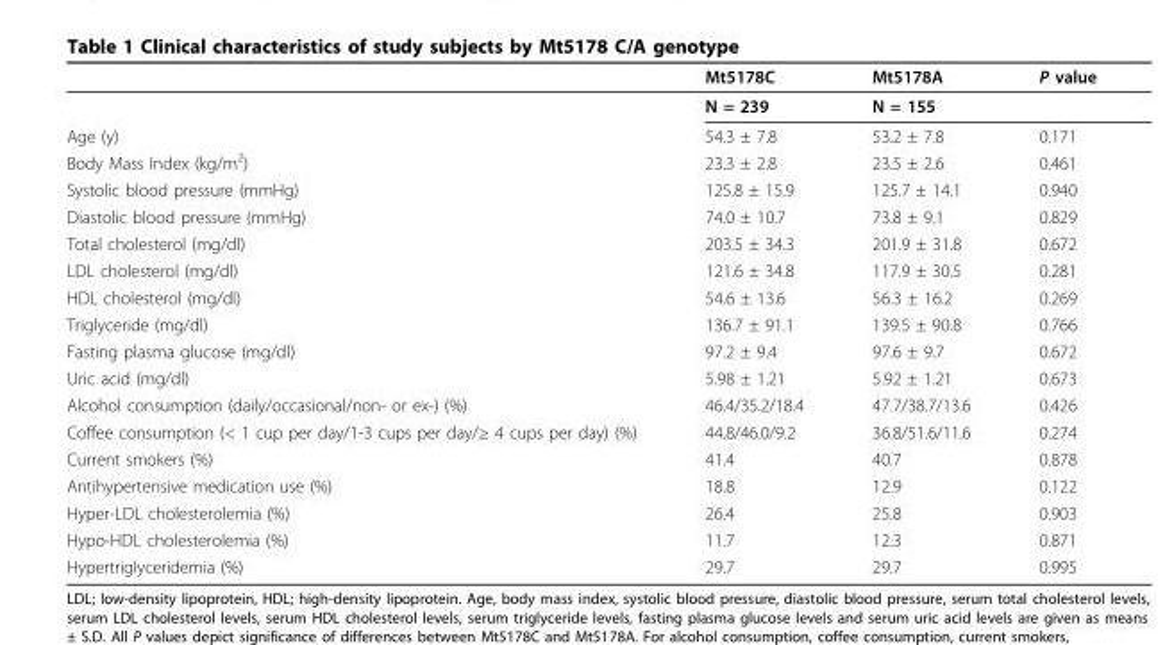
<table><thead><tr><td></td><td>Mt5178C</td><td>Mt5178A</td><td>P value</td></tr></thead><tbody><tr><td></td><td>N = 239</td><td>N = 155</td><td></td></tr><tr><td>Age (y)</td><td>54.3 ± 7.8</td><td>53.2 ± 7.8</td><td>0.171</td></tr><tr><td>Body Mass Index (kg/m<sup>2</sup>)</td><td>23.3 ± 2.8</td><td>23.5 ± 2.6</td><td>0.461</td></tr><tr><td>Systolic blood pressure (mmHg)</td><td>125.8 ± 15.9</td><td>125.7 ± 14.1</td><td>0.940</td></tr><tr><td>Diastolic blood pressure (mmHg)</td><td>74.0 ± 10.7</td><td>73.8 ± 9.1</td><td>0.829</td></tr><tr><td>Total cholesterol (mg/dl)</td><td>203.5 ± 34.3</td><td>201.9 ± 31.8</td><td>0.672</td></tr><tr><td>LDL cholesterol (mg/dl)</td><td>121.6 ± 34.8</td><td>117.9 ± 30.5</td><td>0.281</td></tr><tr><td>HDL cholesterol (mg/dl)</td><td>54.6 ± 13.6</td><td>56.3 ± 16.2</td><td>0.269</td></tr><tr><td>Triglyceride (mg/dl)</td><td>136.7 ± 91.1</td><td>139.5 ± 90.8</td><td>0.766</td></tr><tr><td>Fasting plasma glucose (mg/dl)</td><td>97.2 ± 9.4</td><td>97.6 ± 9.7</td><td>0.672</td></tr><tr><td>Uric acid (mg/dl)</td><td>5.98 ± 1.21</td><td>5.92 ± 1.21</td><td>0.673</td></tr><tr><td>Alcohol consumption (daily/occasional/non- or ex-) (%)</td><td>46.4/35.2/18.4</td><td>47.7/38.7/13.6</td><td>0.426</td></tr><tr><td>Coffee consumption (&lt; 1 cup per day/1-3 cups per day/≥ 4 cups per day) (%)</td><td>44.8/46.0/9.2</td><td>36.8/51.6/11.6</td><td>0.274</td></tr><tr><td>Current smokers (%)</td><td>41.4</td><td>40.7</td><td>0.878</td></tr><tr><td>Antihypertensive medication use (%)</td><td>18.8</td><td>12.9</td><td>0.122</td></tr><tr><td>Hyper-LDL cholesterolemia (%)</td><td>26.4</td><td>25.8</td><td>0.903</td></tr><tr><td>Hypo-HDL cholesterolemia (%)</td><td>11.7</td><td>12.3</td><td>0.871</td></tr><tr><td>Hypertriglyceridemia (%)</td><td>29.7</td><td>29.7</td><td>0.995</td></tr></tbody></table>